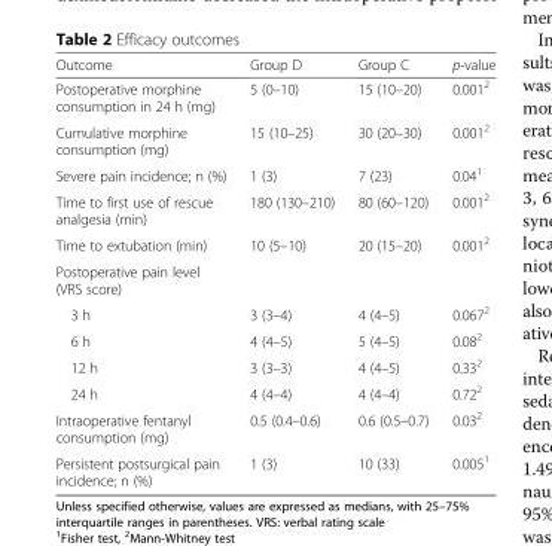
<table><thead><tr><td>Outcome</td><td>Group D</td><td>Group C</td><td>p-value</td></tr></thead><tbody><tr><td>Postoperative morphine consumption in 24 h (mg)</td><td>5 (0–10)</td><td>15 (10–20)</td><td>0.001<sup>2</sup></td></tr><tr><td>Cumulative morphine consumption (mg)</td><td>15 (10–25)</td><td>30 (20–30)</td><td>0.001<sup>2</sup></td></tr><tr><td>Severe pain incidence; n (%)</td><td>1 (3)</td><td>7 (23)</td><td>0.04<sup>1</sup></td></tr><tr><td>Time to first use of rescue analgesia (min)</td><td>180 (130–210)</td><td>80 (60–120)</td><td>0.001<sup>2</sup></td></tr><tr><td>Time to extubation (min)</td><td>10 (5–10)</td><td>20 (15–20)</td><td>0.001<sup>2</sup></td></tr><tr><td colspan="4">Postoperative pain level (VRS score)</td></tr><tr><td>3 h</td><td>3 (3–4)</td><td>4 (4–5)</td><td>0.067<sup>2</sup></td></tr><tr><td>6 h</td><td>4 (4–5)</td><td>5 (4–5)</td><td>0.08<sup>2</sup></td></tr><tr><td>12 h</td><td>3 (3–3)</td><td>4 (4–5)</td><td>0.33<sup>2</sup></td></tr><tr><td>24 h</td><td>4 (4–4)</td><td>4 (4–4)</td><td>0.72<sup>2</sup></td></tr><tr><td>Intraoperative fentanyl consumption (mg)</td><td>0.5 (0.4–0.6)</td><td>0.6 (0.5–0.7)</td><td>0.03<sup>2</sup></td></tr><tr><td>Persistent postsurgical pain incidence; n (%)</td><td>1 (3)</td><td>10 (33)</td><td>0.005<sup>1</sup></td></tr></tbody></table>